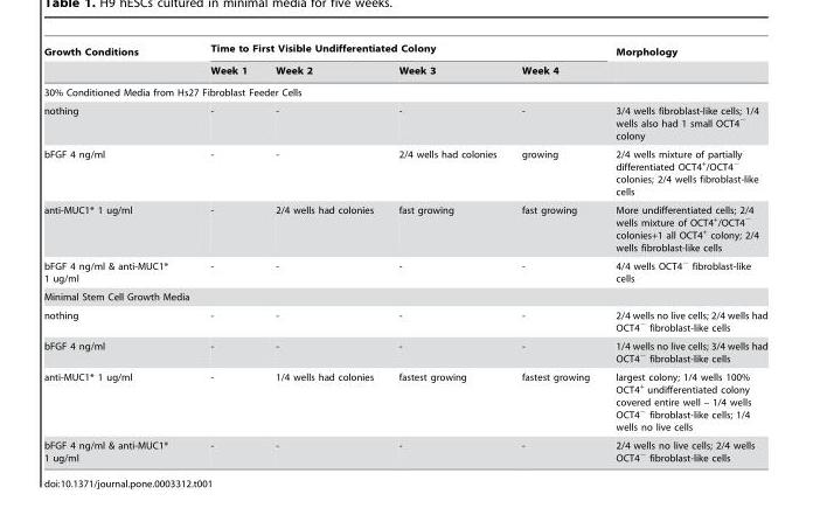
<table><thead><tr><td rowspan="2">Growth Conditions</td><td colspan="4">Time to First Visible Undifferentiated Colony</td><td rowspan="2">Morphology</td></tr><tr><td>Week 1</td><td>Week 2</td><td>Week 3</td><td>Week 4</td></tr></thead><tbody><tr><td colspan="6">30% Conditioned Media from Hs27 Fibroblast Feeder Cells</td></tr><tr><td>nothing</td><td>-</td><td>-</td><td>-</td><td>-</td><td>3/4 wells fibroblast-like cells; 1/4 wells also had 1 small OCT4<sup>−</sup> colony</td></tr><tr><td>bFGF 4 ng/ml</td><td>-</td><td>-</td><td>2/4 wells had colonies</td><td>growing</td><td>2/4 wells mixture of partially differentiated OCT4<sup>+</sup>/OCT4<sup>−</sup> colonies; 2/4 wells fibroblast-like cells</td></tr><tr><td>anti-MUC1* 1 ug/ml</td><td>-</td><td>2/4 wells had colonies</td><td>fast growing</td><td>fast growing</td><td>More undifferentiated cells; 2/4 wells mixture of OCT4<sup>+</sup>/OCT4<sup>−</sup> colonies+1 all OCT4<sup>+</sup> colony; 2/4 wells fibroblast-like cells</td></tr><tr><td>bFGF 4 ng/ml &amp; anti-MUC1* 1 ug/ml</td><td>-</td><td>-</td><td>-</td><td>-</td><td>4/4 wells OCT4<sup>−</sup> fibroblast-like cells</td></tr><tr><td colspan="6">Minimal Stem Cell Growth Media</td></tr><tr><td>nothing</td><td>-</td><td>-</td><td>-</td><td>-</td><td>2/4 wells no live cells; 2/4 wells had OCT4<sup>−</sup> fibroblast-like cells</td></tr><tr><td>bFGF 4 ng/ml</td><td>-</td><td>-</td><td>-</td><td>-</td><td>1/4 wells no live cells; 3/4 wells had OCT4<sup>−</sup> fibroblast-like cells</td></tr><tr><td>anti-MUC1* 1 ug/ml</td><td>-</td><td>1/4 wells had colonies</td><td>fastest growing</td><td>fastest growing</td><td>largest colony; 1/4 wells 100% OCT4<sup>+</sup> undifferentiated colony covered entire well – 1/4 wells OCT4<sup>−</sup> fibroblast-like cells; 1/4 wells no live cells</td></tr><tr><td>bFGF 4 ng/ml &amp; anti-MUC1* 1 ug/ml</td><td>-</td><td>-</td><td>-</td><td>-</td><td>2/4 wells no live cells; 2/4 wells OCT4<sup>−</sup> fibroblast-like cells</td></tr></tbody></table>